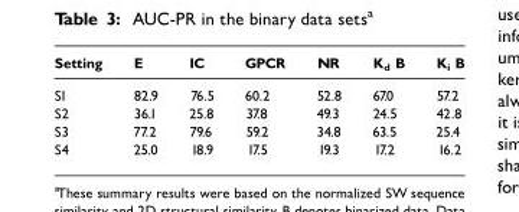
<table><thead><tr><td>Setting</td><td>E</td><td>IC</td><td>GPCR</td><td>NR</td><td>K<sub>d</sub> B</td><td>K<sub>i</sub> B</td></tr></thead><tbody><tr><td>S1</td><td>82.9</td><td>76.5</td><td>60.2</td><td>52.8</td><td>67.0</td><td>57.2</td></tr><tr><td>S2</td><td>36.1</td><td>25.8</td><td>37.8</td><td>49.3</td><td>24.5</td><td>42.8</td></tr><tr><td>S3</td><td>77.2</td><td>79.6</td><td>59.2</td><td>34.8</td><td>63.5</td><td>25.4</td></tr><tr><td>S4</td><td>25.0</td><td>18.9</td><td>17.5</td><td>19.3</td><td>17.2</td><td>16.2</td></tr></tbody></table>